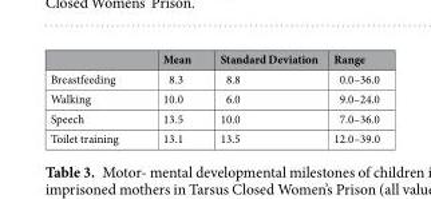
<table><thead><tr><td></td><td>Mean</td><td>Standard Deviation</td><td>Range</td></tr></thead><tbody><tr><td>Breastfeeding</td><td>8.3</td><td>8.8</td><td>0.0–36.0</td></tr><tr><td>Walking</td><td>10.0</td><td>6.0</td><td>9.0–24.0</td></tr><tr><td>Speech</td><td>13.5</td><td>10.0</td><td>7.0–36.0</td></tr><tr><td>Toilet training</td><td>13.1</td><td>13.5</td><td>12.0–39.0</td></tr></tbody></table>